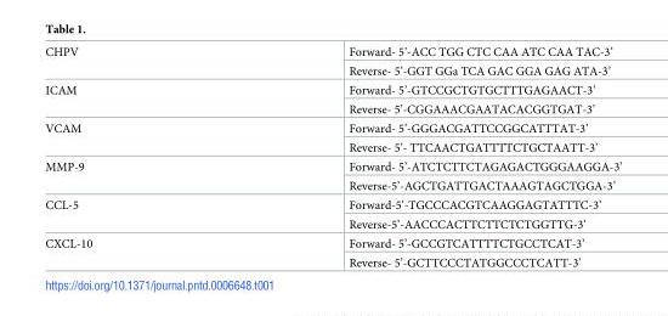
<table><tbody><tr><td rowspan="2">CHPV</td><td>Forward- 5’-ACC TGG CTC CAA ATC CAA TAC-3’</td></tr><tr><td>Reverse- 5’-GGT GGa TCA GAC GGA GAG ATA-3’</td></tr><tr><td rowspan="2">ICAM</td><td>Forward- 5’-GTCCGCTGTGCTTTGAGAACT-3’</td></tr><tr><td>Reverse- 5’-CGGAAACGAATACACGGTGAT-3’</td></tr><tr><td rowspan="2">VCAM</td><td>Forward- 5’-GGGACGATTCCGGCATTTAT-3’</td></tr><tr><td>Reverse- 5’- TTCAACTGATTTTCTGCTAATT-3’</td></tr><tr><td rowspan="2">MMP-9</td><td>Forward- 5’-ATCTCTTCTAGAGACTGGGAAGGA-3’</td></tr><tr><td>Reverse-5’-AGCTGATTGACTAAAGTAGCTGGA-3’</td></tr><tr><td rowspan="2">CCL-5</td><td>Forward-5’-TGCCCACGTCAAGGAGTATTTC-3’</td></tr><tr><td>Reverse-5’-AACCCACTTCTTCTCTGGTTG-3’</td></tr><tr><td rowspan="2">CXCL-10</td><td>Forward- 5’-GCCGTCATTTTCTGCCTCAT-3’</td></tr><tr><td>Reverse- 5’-GCTTCCCTATGGCCCTCATT-3’</td></tr></tbody></table>